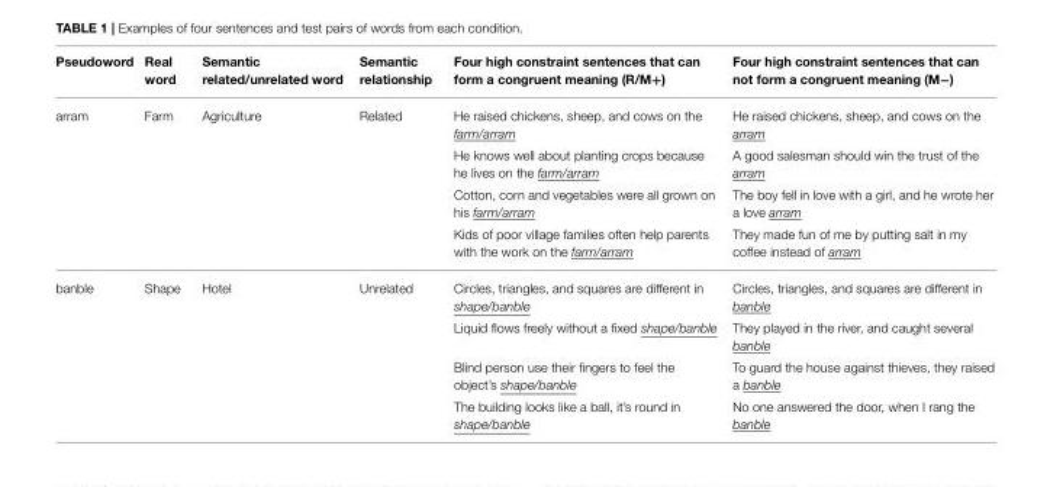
<table><thead><tr><td>Pseudoword</td><td>Real word</td><td>Semantic related/unrelated word</td><td>Semantic relationship</td><td>Four high constraint sentences that can form a congruent meaning (R/M+)</td><td>Four high constraint sentences that can not form a congruent meaning (M−)</td></tr></thead><tbody><tr><td rowspan="4">arram</td><td>Farm</td><td>Agriculture</td><td>Related</td><td>He raised chickens, sheep, and cows on the farm/arram</td><td>He raised chickens, sheep, and cows on the arram</td></tr><tr><td></td><td></td><td></td><td>He knows well about planting crops because he lives on the farm/arram</td><td>A good salesman should win the trust of the arram</td></tr><tr><td></td><td></td><td></td><td>Cotton, corn and vegetables were all grown on his farm/arram</td><td>The boy fell in love with a girl, and he wrote her a love arram</td></tr><tr><td></td><td></td><td></td><td>Kids of poor village families often help parents with the work on the farm/arram</td><td>They made fun of me by putting salt in my coffee instead of arram</td></tr><tr><td rowspan="4">banble</td><td>Shape</td><td>Hotel</td><td>Unrelated</td><td>Circles, triangles, and squares are different in shape/banble</td><td>Circles, triangles, and squares are different in banble</td></tr><tr><td></td><td></td><td></td><td>Liquid flows freely without a fixed shape/banble</td><td>They played in the river, and caught several banble</td></tr><tr><td></td><td></td><td></td><td>Blind person use their fingers to feel the object’s shape/banble</td><td>To guard the house against thieves, they raised a banble</td></tr><tr><td></td><td></td><td></td><td>The building looks like a ball, it’s round in shape/banble</td><td>No one answered the door, when I rang the banble</td></tr></tbody></table>